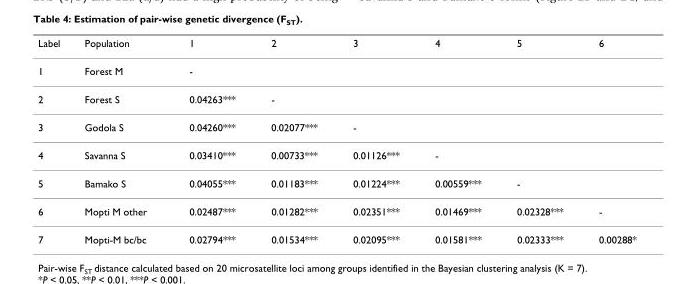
<table><thead><tr><td>Label</td><td>Population</td><td>1</td><td>2</td><td>3</td><td>4</td><td>5</td><td>6</td></tr></thead><tbody><tr><td>1</td><td>Forest M</td><td>-</td><td></td><td></td><td></td><td></td><td></td></tr><tr><td>2</td><td>Forest S</td><td>0.04263***</td><td>-</td><td></td><td></td><td></td><td></td></tr><tr><td>3</td><td>Godola S</td><td>0.04260***</td><td>0.02077***</td><td>-</td><td></td><td></td><td></td></tr><tr><td>4</td><td>Savanna S</td><td>0.03410***</td><td>0.00733***</td><td>0.01126***</td><td>-</td><td></td><td></td></tr><tr><td>5</td><td>Bamako S</td><td>0.04055***</td><td>0.01183***</td><td>0.01224***</td><td>0.00559***</td><td>-</td><td></td></tr><tr><td>6</td><td>Mopti M other</td><td>0.02487***</td><td>0.01282***</td><td>0.02351***</td><td>0.01469***</td><td>0.02328***</td><td>-</td></tr><tr><td>7</td><td>Mopti-M bc/bc</td><td>0.02794***</td><td>0.01534***</td><td>0.02095***</td><td>0.01581***</td><td>0.02333***</td><td>0.00288*</td></tr></tbody></table>